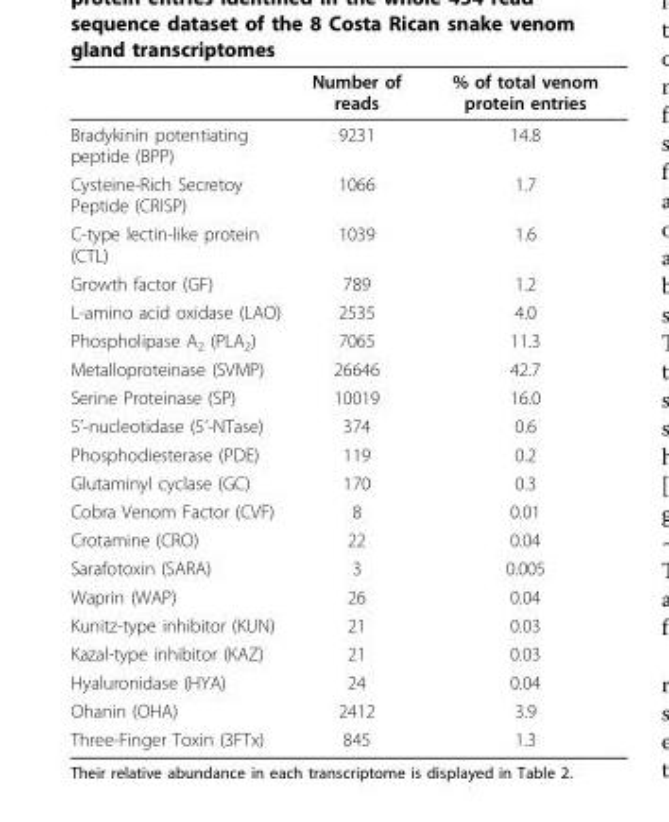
<table><thead><tr><td></td><td>Number of reads</td><td>% of total venom protein entries</td></tr></thead><tbody><tr><td>Bradykinin potentiating peptide (BPP)</td><td>9231</td><td>14.8</td></tr><tr><td>Cysteine-Rich Secretoy Peptide (CRISP)</td><td>1066</td><td>1.7</td></tr><tr><td>C-type lectin-like protein (CTL)</td><td>1039</td><td>1.6</td></tr><tr><td>Growth factor (GF)</td><td>789</td><td>1.2</td></tr><tr><td>L-amino acid oxidase (LAO)</td><td>2535</td><td>4.0</td></tr><tr><td>Phospholipase A<sub>2</sub> (PLA<sub>2</sub>)</td><td>7065</td><td>11.3</td></tr><tr><td>Metalloproteinase (SVMP)</td><td>26646</td><td>42.7</td></tr><tr><td>Serine Proteinase (SP)</td><td>10019</td><td>16.0</td></tr><tr><td>5’-nucleotidase (5’-NTase)</td><td>374</td><td>0.6</td></tr><tr><td>Phosphodiesterase (PDE)</td><td>119</td><td>0.2</td></tr><tr><td>Glutaminyl cyclase (GC)</td><td>170</td><td>0.3</td></tr><tr><td>Cobra Venom Factor (CVF)</td><td>8</td><td>0.01</td></tr><tr><td>Crotamine (CRO)</td><td>22</td><td>0.04</td></tr><tr><td>Sarafotoxin (SARA)</td><td>3</td><td>0.005</td></tr><tr><td>Waprin (WAP)</td><td>26</td><td>0.04</td></tr><tr><td>Kunitz-type inhibitor (KUN)</td><td>21</td><td>0.03</td></tr><tr><td>Kazal-type inhibitor (KAZ)</td><td>21</td><td>0.03</td></tr><tr><td>Hyaluronidase (HYA)</td><td>24</td><td>0.04</td></tr><tr><td>Ohanin (OHA)</td><td>2412</td><td>3.9</td></tr><tr><td>Three-Finger Toxin (3FTx)</td><td>845</td><td>1.3</td></tr></tbody></table>